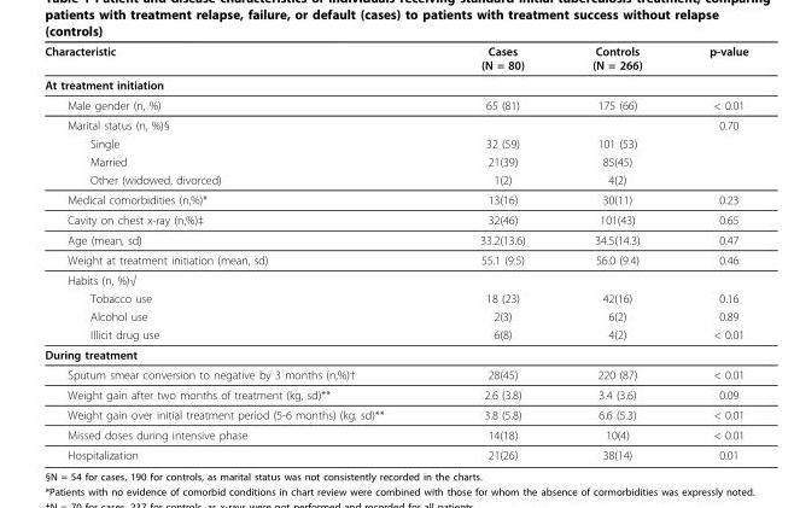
<table><thead><tr><td>Characteristic</td><td>Cases (N = 80)</td><td>Controls (N = 266)</td><td>p-value</td></tr></thead><tbody><tr><td colspan="4">At treatment initiation</td></tr><tr><td>Male gender (n, %)</td><td>65 (81)</td><td>175 (66)</td><td>&lt; 0.01</td></tr><tr><td>Marital status (n, %)§</td><td></td><td></td><td>0.70</td></tr><tr><td>Single</td><td>32 (59)</td><td>101 (53)</td><td></td></tr><tr><td>Married</td><td>21(39)</td><td>85(45)</td><td></td></tr><tr><td>Other (widowed, divorced)</td><td>1(2)</td><td>4(2)</td><td></td></tr><tr><td>Medical comorbidities (n,%)*</td><td>13(16)</td><td>30(11)</td><td>0.23</td></tr><tr><td>Cavity on chest x-ray (n,%)‡</td><td>32(46)</td><td>101(43)</td><td>0.65</td></tr><tr><td>Age (mean, sd)</td><td>33.2(13.6)</td><td>34.5(14.3)</td><td>0.47</td></tr><tr><td>Weight at treatment initiation (mean, sd)</td><td>55.1 (9.5)</td><td>56.0 (9.4)</td><td>0.46</td></tr><tr><td colspan="4">Habits (n, %)√</td></tr><tr><td>Tobacco use</td><td>18 (23)</td><td>42(16)</td><td>0.16</td></tr><tr><td>Alcohol use</td><td>2(3)</td><td>6(2)</td><td>0.89</td></tr><tr><td>Illicit drug use</td><td>6(8)</td><td>4(2)</td><td>&lt; 0.01</td></tr><tr><td colspan="4">During treatment</td></tr><tr><td>Sputum smear conversion to negative by 3 months (n,%)†</td><td>28(45)</td><td>220 (87)</td><td>&lt; 0.01</td></tr><tr><td>Weight gain after two months of treatment (kg, sd)**</td><td>2.6 (3.8)</td><td>3.4 (3.6)</td><td>0.09</td></tr><tr><td>Weight gain over initial treatment period (5-6 months) (kg, sd)**</td><td>3.8 (5.8)</td><td>6.6 (5.3)</td><td>&lt; 0.01</td></tr><tr><td>Missed doses during intensive phase</td><td>14(18)</td><td>10(4)</td><td>&lt; 0.01</td></tr><tr><td>Hospitalization</td><td>21(26)</td><td>38(14)</td><td>0.01</td></tr></tbody></table>